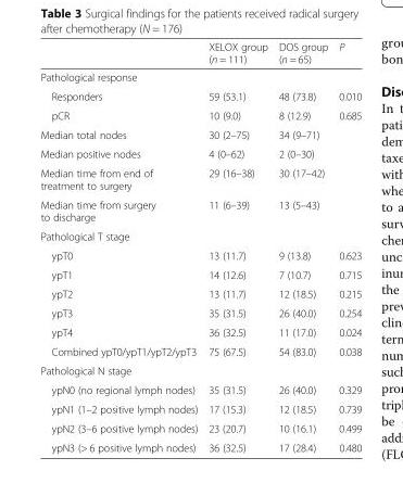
<table><thead><tr><td></td><td>XELOX group (n = 111)</td><td>DOS group (n = 65)</td><td>P</td></tr></thead><tbody><tr><td colspan="4">Pathological response</td></tr><tr><td>Responders</td><td>59 (53.1)</td><td>48 (73.8)</td><td>0.010</td></tr><tr><td>pCR</td><td>10 (9.0)</td><td>8 (12.9)</td><td>0.685</td></tr><tr><td>Median total nodes</td><td>30 (2–75)</td><td>34 (9–71)</td><td></td></tr><tr><td>Median positive nodes</td><td>4 (0–62)</td><td>2 (0–30)</td><td></td></tr><tr><td>Median time from end of treatment to surgery</td><td>29 (16–38)</td><td>30 (17–42)</td><td></td></tr><tr><td>Median time from surgery to discharge</td><td>11 (6–39)</td><td>13 (5–43)</td><td></td></tr><tr><td colspan="4">Pathological T stage</td></tr><tr><td>ypT0</td><td>13 (11.7)</td><td>9 (13.8)</td><td>0.623</td></tr><tr><td>ypT1</td><td>14 (12.6)</td><td>7 (10.7)</td><td>0.715</td></tr><tr><td>ypT2</td><td>13 (11.7)</td><td>12 (18.5)</td><td>0.215</td></tr><tr><td>ypT3</td><td>35 (31.5)</td><td>26 (40.0)</td><td>0.254</td></tr><tr><td>ypT4</td><td>36 (32.5)</td><td>11 (17.0)</td><td>0.024</td></tr><tr><td>Combined ypT0/ypT1/ypT2/ypT3</td><td>75 (67.5)</td><td>54 (83.0)</td><td>0.038</td></tr><tr><td colspan="4">Pathological N stage</td></tr><tr><td>ypN0 (no regional lymph nodes)</td><td>35 (31.5)</td><td>26 (40.0)</td><td>0.329</td></tr><tr><td>ypN1 (1–2 positive lymph nodes)</td><td>17 (15.3)</td><td>12 (18.5)</td><td>0.739</td></tr><tr><td>ypN2 (3–6 positive lymph nodes)</td><td>23 (20.7)</td><td>10 (16.1)</td><td>0.499</td></tr><tr><td>ypN3 (&gt; 6 positive lymph nodes)</td><td>36 (32.5)</td><td>17 (28.4)</td><td>0.480</td></tr></tbody></table>